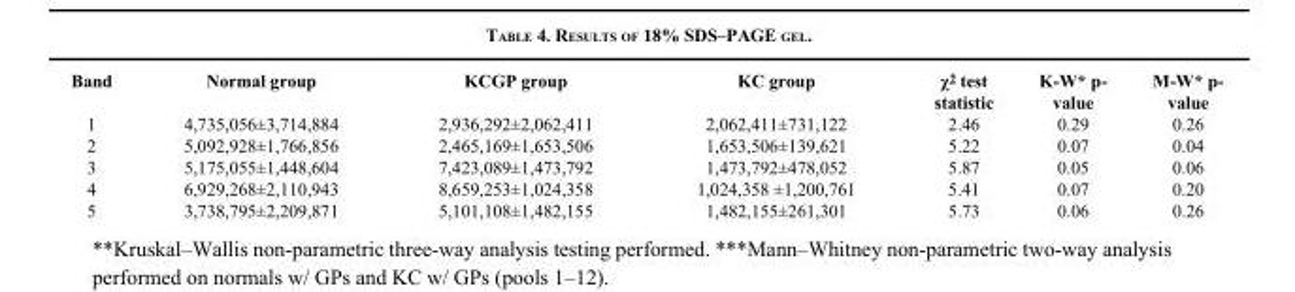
<table><thead><tr><td>Band</td><td>Normal group</td><td>KCGP group</td><td>KC group</td><td>χ<sup>2</sup> test statistic</td><td>K-W* p- value</td><td>M-W* p- value</td></tr></thead><tbody><tr><td>1</td><td>4,735,056±3,714,884</td><td>2,936,292±2,062,411</td><td>2,062,411±731,122</td><td>2.46</td><td>0.29</td><td>0.26</td></tr><tr><td>2</td><td>5,092,928±1,766,856</td><td>2,465,169±1,653,506</td><td>1,653,506±139,621</td><td>5.22</td><td>0.07</td><td>0.04</td></tr><tr><td>3</td><td>5,175,055±1,448,604</td><td>7,423,089±1,473,792</td><td>1,473,792±478,052</td><td>5.87</td><td>0.05</td><td>0.06</td></tr><tr><td>4</td><td>6,929,268±2,110,943</td><td>8,659,253±1,024,358</td><td>1,024,358 ±1,200,761</td><td>5.41</td><td>0.07</td><td>0.20</td></tr><tr><td>5</td><td>3,738,795±2,209,871</td><td>5,101,108±1,482,155</td><td>1,482,155±261,301</td><td>5.73</td><td>0.06</td><td>0.26</td></tr></tbody></table>